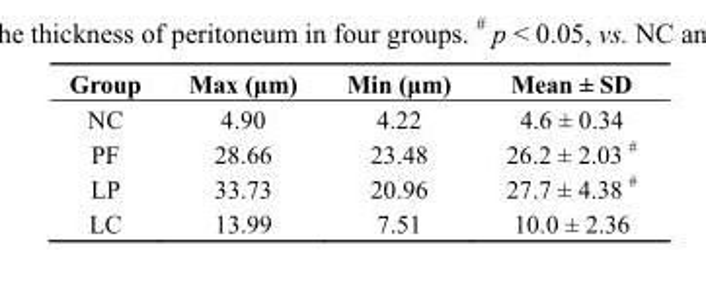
<table><thead><tr><td>Group</td><td>Max (μm)</td><td>Min (μm)</td><td>Mean ± SD</td></tr></thead><tbody><tr><td>NC</td><td>4.90</td><td>4.22</td><td>4.6 ± 0.34</td></tr><tr><td>PF</td><td>28.66</td><td>23.48</td><td>26.2 ± 2.03 #</td></tr><tr><td>LP</td><td>33.73</td><td>20.96</td><td>27.7 ± 4.38 #</td></tr><tr><td>LC</td><td>13.99</td><td>7.51</td><td>10.0 ± 2.36</td></tr></tbody></table>